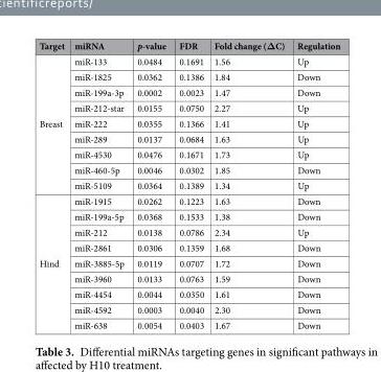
<table><thead><tr><td>Target</td><td>miRNA</td><td>p-value</td><td>FDR</td><td>Fold change (ΔC)</td><td>Regulation</td></tr></thead><tbody><tr><td rowspan="9">Breast</td><td>miR-133</td><td>0.0484</td><td>0.1691</td><td>1.56</td><td>Up</td></tr><tr><td>miR-1825</td><td>0.0362</td><td>0.1386</td><td>1.84</td><td>Down</td></tr><tr><td>miR-199a-3p</td><td>0.0002</td><td>0.0023</td><td>1.47</td><td>Down</td></tr><tr><td>miR-212-star</td><td>0.0155</td><td>0.0750</td><td>2.27</td><td>Up</td></tr><tr><td>miR-222</td><td>0.0355</td><td>0.1366</td><td>1.41</td><td>Up</td></tr><tr><td>miR-289</td><td>0.0137</td><td>0.0684</td><td>1.63</td><td>Up</td></tr><tr><td>miR-4530</td><td>0.0476</td><td>0.1671</td><td>1.73</td><td>Up</td></tr><tr><td>miR-460-5p</td><td>0.0046</td><td>0.0302</td><td>1.85</td><td>Down</td></tr><tr><td>miR-5109</td><td>0.0364</td><td>0.1389</td><td>1.34</td><td>Up</td></tr><tr><td rowspan="9">Hind</td><td>miR-1915</td><td>0.0262</td><td>0.1223</td><td>1.63</td><td>Down</td></tr><tr><td>miR-199a-5p</td><td>0.0368</td><td>0.1533</td><td>1.38</td><td>Down</td></tr><tr><td>miR-212</td><td>0.0138</td><td>0.0786</td><td>2.34</td><td>Up</td></tr><tr><td>miR-2861</td><td>0.0306</td><td>0.1359</td><td>1.68</td><td>Down</td></tr><tr><td>miR-3885-5p</td><td>0.0119</td><td>0.0707</td><td>1.72</td><td>Down</td></tr><tr><td>miR-3960</td><td>0.0133</td><td>0.0763</td><td>1.59</td><td>Down</td></tr><tr><td>miR-4454</td><td>0.0044</td><td>0.0350</td><td>1.61</td><td>Down</td></tr><tr><td>miR-4592</td><td>0.0003</td><td>0.0040</td><td>2.30</td><td>Down</td></tr><tr><td>miR-638</td><td>0.0054</td><td>0.0403</td><td>1.67</td><td>Down</td></tr></tbody></table>